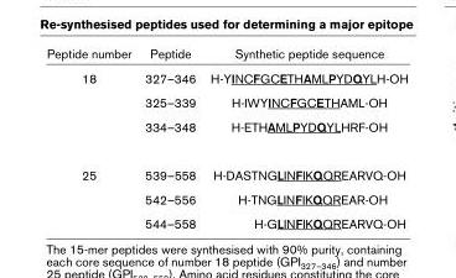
<table><thead><tr><td>Peptide number</td><td>Peptide</td><td>Synthetic peptide sequence</td></tr></thead><tbody><tr><td rowspan="3">18</td><td>327–346</td><td>H-YINCFGCETHAMLPYDQYLH-OH</td></tr><tr><td>325–339</td><td>H-IWYINCFGCETHAML-OH</td></tr><tr><td>334–348</td><td>H-ETHAMLPYDQYLHRF-OH</td></tr><tr><td rowspan="3">25</td><td>539–558</td><td>H-DASTNGLINFIKQQREARVQ-OH</td></tr><tr><td>542–556</td><td>H-TNGLINFIKQQREAR-OH</td></tr><tr><td>544–558</td><td>H-GLINFIKQQREARVQ-OH</td></tr></tbody></table>